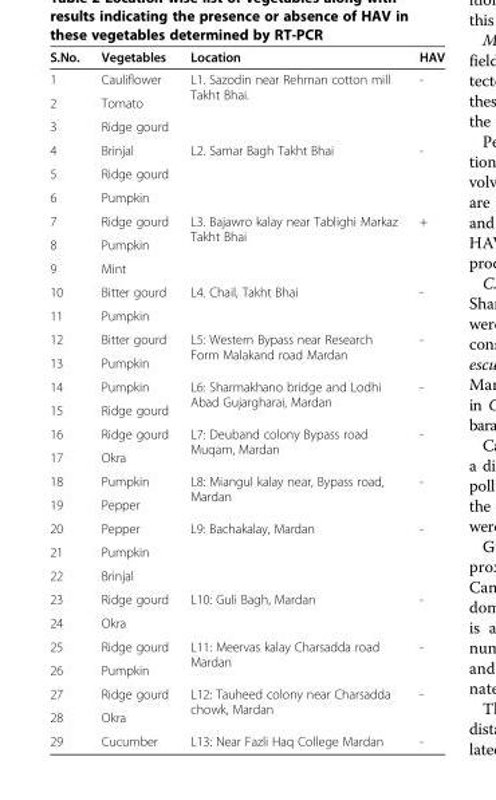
<table><thead><tr><td>S.No.</td><td>Vegetables</td><td>Location</td><td>HAV</td></tr></thead><tbody><tr><td>1</td><td>Cauliflower</td><td rowspan="3">L1. Sazodin near Rehman cotton mill Takht Bhai.</td><td rowspan="3">-</td></tr><tr><td>2</td><td>Tomato</td></tr><tr><td>3</td><td>Ridge gourd</td></tr><tr><td>4</td><td>Brinjal</td><td rowspan="3">L2. Samar Bagh Takht Bhai</td><td rowspan="3">-</td></tr><tr><td>5</td><td>Ridge gourd</td></tr><tr><td>6</td><td>Pumpkin</td></tr><tr><td>7</td><td>Ridge gourd</td><td rowspan="3">L3. Bajawro kalay near Tablighi Markaz Takht Bhai</td><td rowspan="3">+</td></tr><tr><td>8</td><td>Pumpkin</td></tr><tr><td>9</td><td>Mint</td></tr><tr><td>10</td><td>Bitter gourd</td><td rowspan="2">L4. Chail, Takht Bhai</td><td rowspan="2">-</td></tr><tr><td>11</td><td>Pumpkin</td></tr><tr><td>12</td><td>Bitter gourd</td><td rowspan="2">L5: Western Bypass near Research Form Malakand road Mardan</td><td rowspan="2">-</td></tr><tr><td>13</td><td>Pumpkin</td></tr><tr><td>14</td><td>Pumpkin</td><td rowspan="2">L6: Sharmakhano bridge and Lodhi Abad Gujargharai, Mardan</td><td rowspan="2">-</td></tr><tr><td>15</td><td>Ridge gourd</td></tr><tr><td>16</td><td>Ridge gourd</td><td rowspan="2">L7: Deuband colony Bypass road Muqam, Mardan</td><td rowspan="2">-</td></tr><tr><td>17</td><td>Okra</td></tr><tr><td>18</td><td>Pumpkin</td><td rowspan="2">L8: Miangul kalay near, Bypass road, Mardan</td><td rowspan="2">-</td></tr><tr><td>19</td><td>Pepper</td></tr><tr><td>20</td><td>Pepper</td><td rowspan="3">L9: Bachakalay, Mardan</td><td rowspan="3">-</td></tr><tr><td>21</td><td>Pumpkin</td></tr><tr><td>22</td><td>Brinjal</td></tr><tr><td>23</td><td>Ridge gourd</td><td rowspan="2">L10: Guli Bagh, Mardan</td><td rowspan="2">-</td></tr><tr><td>24</td><td>Okra</td></tr><tr><td>25</td><td>Ridge gourd</td><td rowspan="2">L11: Meervas kalay Charsadda road Mardan</td><td rowspan="2">-</td></tr><tr><td>26</td><td>Pumpkin</td></tr><tr><td>27</td><td>Ridge gourd</td><td rowspan="2">L12: Tauheed colony near Charsadda chowk, Mardan</td><td rowspan="2">-</td></tr><tr><td>28</td><td>Okra</td></tr><tr><td>29</td><td>Cucumber</td><td>L13: Near Fazli Haq College Mardan</td><td>-</td></tr></tbody></table>